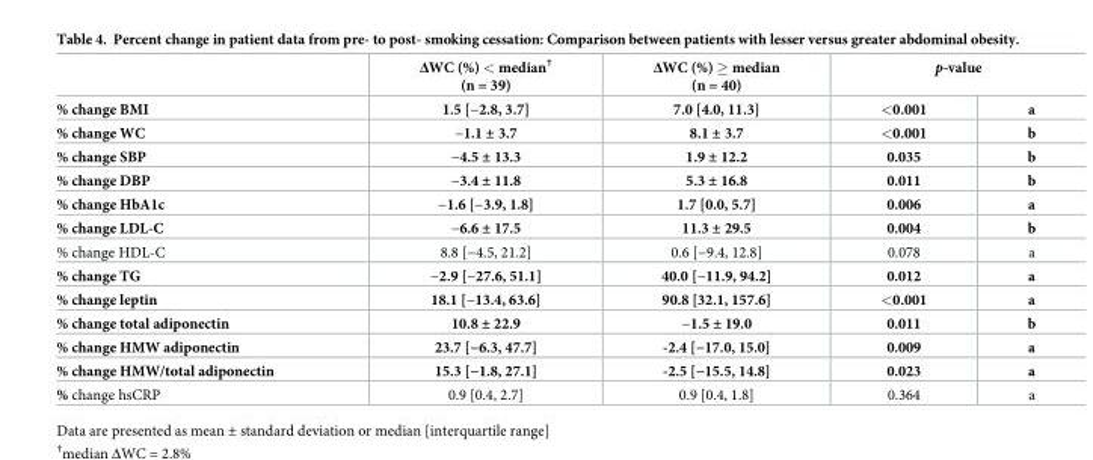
<table><thead><tr><td rowspan="2">% change BMI</td><td rowspan="2">ΔWC (%) &lt; median<sup>†</sup> (n = 39) 1.5 [−2.8, 3.7]</td><td rowspan="2">ΔWC (%) ≥ median (n = 40) 7.0 [4.0, 11.3]</td><td colspan="2">p-value</td></tr><tr><td>&lt;0.001</td><td>a</td></tr></thead><tbody><tr><td>% change WC</td><td>−1.1 ± 3.7</td><td>8.1 ± 3.7</td><td>&lt;0.001</td><td>b</td></tr><tr><td>% change SBP</td><td>−4.5 ± 13.3</td><td>1.9 ± 12.2</td><td>0.035</td><td>b</td></tr><tr><td>% change DBP</td><td>−3.4 ± 11.8</td><td>5.3 ± 16.8</td><td>0.011</td><td>b</td></tr><tr><td>% change HbA1c</td><td>−1.6 [−3.9, 1.8]</td><td>1.7 [0.0, 5.7]</td><td>0.006</td><td>a</td></tr><tr><td>% change LDL-C</td><td>−6.6 ± 17.5</td><td>11.3 ± 29.5</td><td>0.004</td><td>b</td></tr><tr><td>% change HDL-C</td><td>8.8 [−4.5, 21.2]</td><td>0.6 [−9.4, 12.8]</td><td>0.078</td><td>a</td></tr><tr><td>% change TG</td><td>−2.9 [−27.6, 51.1]</td><td>40.0 [−11.9, 94.2]</td><td>0.012</td><td>a</td></tr><tr><td>% change leptin</td><td>18.1 [−13.4, 63.6]</td><td>90.8 [32.1, 157.6]</td><td>&lt;0.001</td><td>a</td></tr><tr><td>% change total adiponectin</td><td>10.8 ± 22.9</td><td>−1.5 ± 19.0</td><td>0.011</td><td>b</td></tr><tr><td>% change HMW adiponectin</td><td>23.7 [−6.3, 47.7]</td><td>-2.4 [−17.0, 15.0]</td><td>0.009</td><td>a</td></tr><tr><td>% change HMW/total adiponectin</td><td>15.3 [−1.8, 27.1]</td><td>-2.5 [−15.5, 14.8]</td><td>0.023</td><td>a</td></tr><tr><td>% change hsCRP</td><td>0.9 [0.4, 2.7]</td><td>0.9 [0.4, 1.8]</td><td>0.364</td><td>a</td></tr></tbody></table>